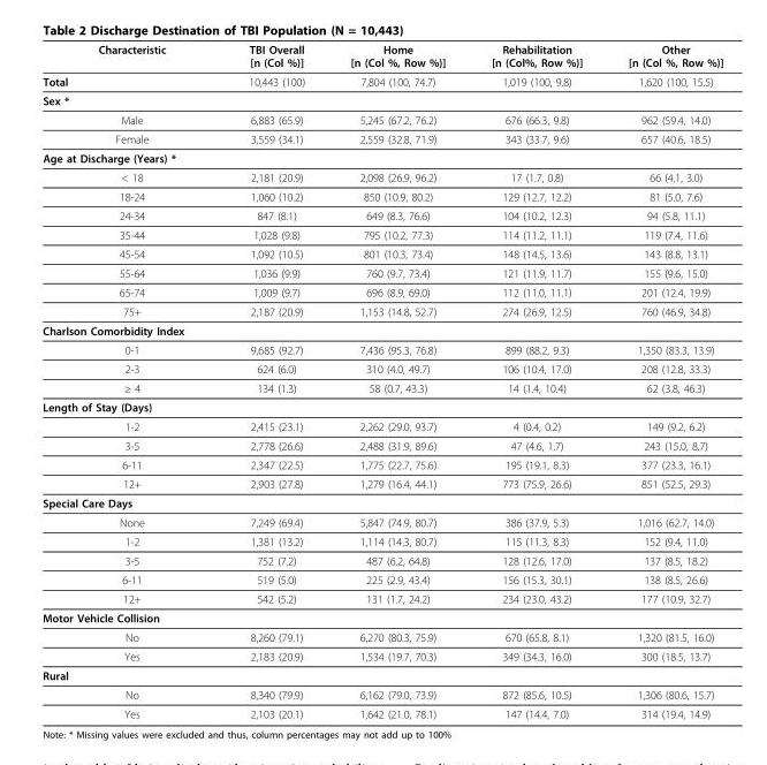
<table><thead><tr><td>Characteristic</td><td>TBI Overall [n (Col %)]</td><td>Home [n (Col %, Row %)]</td><td>Rehabilitation [n (Col%, Row %)]</td><td>Other [n (Col %, Row %)]</td></tr></thead><tbody><tr><td>Total</td><td>10,443 (100)</td><td>7,804 (100, 74.7)</td><td>1,019 (100, 9.8)</td><td>1,620 (100, 15.5)</td></tr><tr><td colspan="5">Sex *</td></tr><tr><td>Male</td><td>6,883 (65.9)</td><td>5,245 (67.2, 76.2)</td><td>676 (66.3, 9.8)</td><td>962 (59.4, 14.0)</td></tr><tr><td>Female</td><td>3,559 (34.1)</td><td>2,559 (32.8, 71.9)</td><td>343 (33.7, 9.6)</td><td>657 (40.6, 18.5)</td></tr><tr><td colspan="5">Age at Discharge (Years) *</td></tr><tr><td>&lt; 18</td><td>2,181 (20.9)</td><td>2,098 (26.9, 96.2)</td><td>17 (1.7, 0.8)</td><td>66 (4.1, 3.0)</td></tr><tr><td>18-24</td><td>1,060 (10.2)</td><td>850 (10.9, 80.2)</td><td>129 (12.7, 12.2)</td><td>81 (5.0, 7.6)</td></tr><tr><td>24-34</td><td>847 (8.1)</td><td>649 (8.3, 76.6)</td><td>104 (10.2, 12.3)</td><td>94 (5.8, 11.1)</td></tr><tr><td>35-44</td><td>1,028 (9.8)</td><td>795 (10.2, 77.3)</td><td>114 (11.2, 11.1)</td><td>119 (7.4, 11.6)</td></tr><tr><td>45-54</td><td>1,092 (10.5)</td><td>801 (10.3, 73.4)</td><td>148 (14.5, 13.6)</td><td>143 (8.8, 13.1)</td></tr><tr><td>55-64</td><td>1,036 (9.9)</td><td>760 (9.7, 73.4)</td><td>121 (11.9, 11.7)</td><td>155 (9.6, 15.0)</td></tr><tr><td>65-74</td><td>1,009 (9.7)</td><td>696 (8.9, 69.0)</td><td>112 (11.0, 11.1)</td><td>201 (12.4, 19.9)</td></tr><tr><td>75+</td><td>2,187 (20.9)</td><td>1,153 (14.8, 52.7)</td><td>274 (26.9, 12.5)</td><td>760 (46.9, 34.8)</td></tr><tr><td colspan="5">Charlson Comorbidity Index</td></tr><tr><td>0-1</td><td>9,685 (92.7)</td><td>7,436 (95.3, 76.8)</td><td>899 (88.2, 9.3)</td><td>1,350 (83.3, 13.9)</td></tr><tr><td>2-3</td><td>624 (6.0)</td><td>310 (4.0, 49.7)</td><td>106 (10.4, 17.0)</td><td>208 (12.8, 33.3)</td></tr><tr><td>≥ 4</td><td>134 (1.3)</td><td>58 (0.7, 43.3)</td><td>14 (1.4, 10.4)</td><td>62 (3.8, 46.3)</td></tr><tr><td colspan="5">Length of Stay (Days)</td></tr><tr><td>1-2</td><td>2,415 (23.1)</td><td>2,262 (29.0, 93.7)</td><td>4 (0.4, 0.2)</td><td>149 (9.2, 6.2)</td></tr><tr><td>3-5</td><td>2,778 (26.6)</td><td>2,488 (31.9, 89.6)</td><td>47 (4.6, 1.7)</td><td>243 (15.0, 8.7)</td></tr><tr><td>6-11</td><td>2,347 (22.5)</td><td>1,775 (22.7, 75.6)</td><td>195 (19.1, 8.3)</td><td>377 (23.3, 16.1)</td></tr><tr><td>12+</td><td>2,903 (27.8)</td><td>1,279 (16.4, 44.1)</td><td>773 (75.9, 26.6)</td><td>851 (52.5, 29.3)</td></tr><tr><td colspan="5">Special Care Days</td></tr><tr><td>None</td><td>7,249 (69.4)</td><td>5,847 (74.9, 80.7)</td><td>386 (37.9, 5.3)</td><td>1,016 (62.7, 14.0)</td></tr><tr><td>1-2</td><td>1,381 (13.2)</td><td>1,114 (14.3, 80.7)</td><td>115 (11.3, 8.3)</td><td>152 (9.4, 11.0)</td></tr><tr><td>3-5</td><td>752 (7.2)</td><td>487 (6.2, 64.8)</td><td>128 (12.6, 17.0)</td><td>137 (8.5, 18.2)</td></tr><tr><td>6-11</td><td>519 (5.0)</td><td>225 (2.9, 43.4)</td><td>156 (15.3, 30.1)</td><td>138 (8.5, 26.6)</td></tr><tr><td>12+</td><td>542 (5.2)</td><td>131 (1.7, 24.2)</td><td>234 (23.0, 43.2)</td><td>177 (10.9, 32.7)</td></tr><tr><td colspan="5">Motor Vehicle Collision</td></tr><tr><td>No</td><td>8,260 (79.1)</td><td>6,270 (80.3, 75.9)</td><td>670 (65.8, 8.1)</td><td>1,320 (81.5, 16.0)</td></tr><tr><td>Yes</td><td>2,183 (20.9)</td><td>1,534 (19.7, 70.3)</td><td>349 (34.3, 16.0)</td><td>300 (18.5, 13.7)</td></tr><tr><td colspan="5">Rural</td></tr><tr><td>No</td><td>8,340 (79.9)</td><td>6,162 (79.0, 73.9)</td><td>872 (85.6, 10.5)</td><td>1,306 (80.6, 15.7)</td></tr><tr><td>Yes</td><td>2,103 (20.1)</td><td>1,642 (21.0, 78.1)</td><td>147 (14.4, 7.0)</td><td>314 (19.4, 14.9)</td></tr></tbody></table>